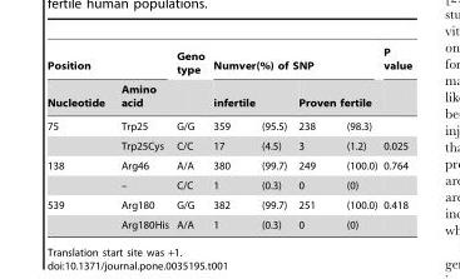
<table><thead><tr><td colspan="2">Position</td><td rowspan="3">Geno type G/G</td><td colspan="4">Numver(%) of SNP</td><td rowspan="3">P value</td></tr><tr><td rowspan="2">Nucleotide 75</td><td rowspan="2">Amino acid Trp25</td><td colspan="2">infertile</td><td colspan="2">Proven fertile</td></tr><tr><td>359</td><td>(95.5)</td><td>238</td><td>(98.3)</td></tr></thead><tbody><tr><td></td><td>Trp25Cys</td><td>C/C</td><td>17</td><td>(4.5)</td><td>3</td><td>(1.2)</td><td>0.025</td></tr><tr><td rowspan="2">138</td><td>Arg46</td><td>A/A</td><td>380</td><td>(99.7)</td><td>249</td><td>(100.0)</td><td>0.764</td></tr><tr><td>–</td><td>C/C</td><td>1</td><td>(0.3)</td><td>0</td><td>(0)</td><td></td></tr><tr><td rowspan="2">539</td><td>Arg180</td><td>G/G</td><td>382</td><td>(99.7)</td><td>251</td><td>(100.0)</td><td>0.418</td></tr><tr><td>Arg180His</td><td>A/A</td><td>1</td><td>(0.3)</td><td>0</td><td>(0)</td><td></td></tr></tbody></table>